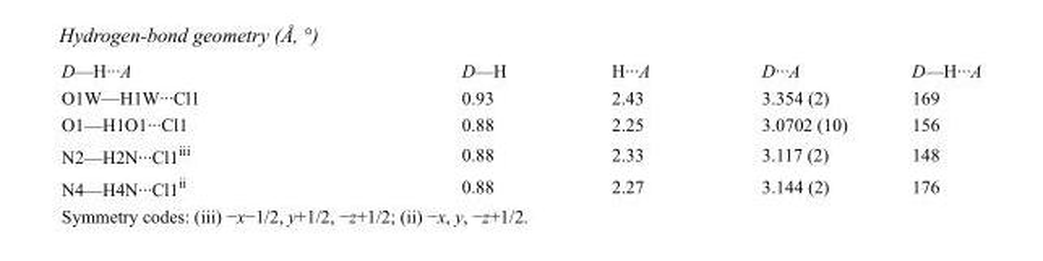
<table><tbody><tr><td>D—H···A</td><td>D—H</td><td>H···A</td><td>D···A</td><td>D—H···A</td></tr><tr><td>O1W—H1W···Cl1</td><td>0.93</td><td>2.43</td><td>3.354 (2)</td><td>169</td></tr><tr><td>O1—H1O1···Cl1</td><td>0.88</td><td>2.25</td><td>3.0702 (10)</td><td>156</td></tr><tr><td>N2—H2N···Cl1<sup>iii</sup></td><td>0.88</td><td>2.33</td><td>3.117 (2)</td><td>148</td></tr><tr><td>N4—H4N···Cl1<sup>ii</sup></td><td>0.88</td><td>2.27</td><td>3.144 (2)</td><td>176</td></tr></tbody></table>